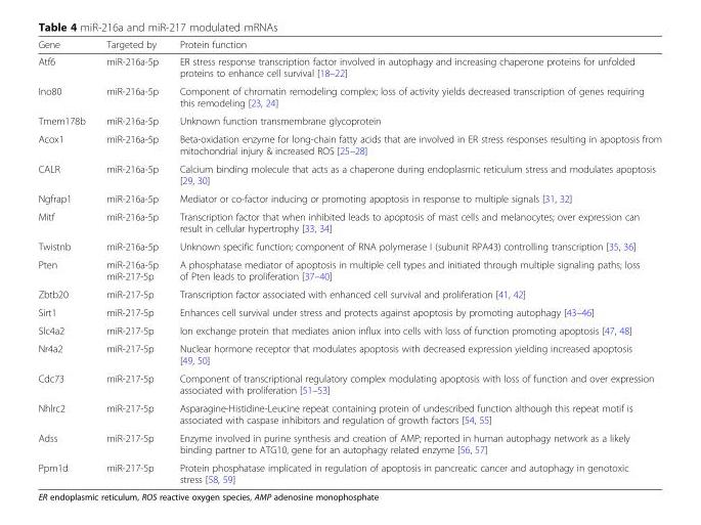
<table><thead><tr><td>Gene</td><td>Targeted by</td><td>Protein function</td></tr></thead><tbody><tr><td>Atf6</td><td>miR-216a-5p</td><td>ER stress response transcription factor involved in autophagy and increasing chaperone proteins for unfolded proteins to enhance cell survival [18–22]</td></tr><tr><td>Ino80</td><td>miR-216a-5p</td><td>Component of chromatin remodeling complex; loss of activity yields decreased transcription of genes requiring this remodeling [23, 24]</td></tr><tr><td>Tmem178b</td><td>miR-216a-5p</td><td>Unknown function transmembrane glycoprotein</td></tr><tr><td>Acox1</td><td>miR-216a-5p</td><td>Beta-oxidation enzyme for long-chain fatty acids that are involved in ER stress responses resulting in apoptosis from mitochondrial injury &amp; increased ROS [25–28]</td></tr><tr><td>CALR</td><td>miR-216a-5p</td><td>Calcium binding molecule that acts as a chaperone during endoplasmic reticulum stress and modulates apoptosis [29, 30]</td></tr><tr><td>Ngfrap1</td><td>miR-216a-5p</td><td>Mediator or co-factor inducing or promoting apoptosis in response to multiple signals [31, 32]</td></tr><tr><td>Mitf</td><td>miR-216a-5p</td><td>Transcription factor that when inhibited leads to apoptosis of mast cells and melanocytes; over expression can result in cellular hypertrophy [33, 34]</td></tr><tr><td>Twistnb</td><td>miR-216a-5p</td><td>Unknown specific function; component of RNA polymerase I (subunit RPA43) controlling transcription [35, 36]</td></tr><tr><td>Pten</td><td>miR-216a-5p miR-217-5p</td><td>A phosphatase mediator of apoptosis in multiple cell types and initiated through multiple signaling paths; loss of Pten leads to proliferation [37–40]</td></tr><tr><td>Zbtb20</td><td>miR-217-5p</td><td>Transcription factor associated with enhanced cell survival and proliferation [41, 42]</td></tr><tr><td>Sirt1</td><td>miR-217-5p</td><td>Enhances cell survival under stress and protects against apoptosis by promoting autophagy [43–46]</td></tr><tr><td>Slc4a2</td><td>miR-217-5p</td><td>Ion exchange protein that mediates anion influx into cells with loss of function promoting apoptosis [47, 48]</td></tr><tr><td>Nr4a2</td><td>miR-217-5p</td><td>Nuclear hormone receptor that modulates apoptosis with decreased expression yielding increased apoptosis [49, 50]</td></tr><tr><td>Cdc73</td><td>miR-217-5p</td><td>Component of transcriptional regulatory complex modulating apoptosis with loss of function and over expression associated with proliferation [51–53]</td></tr><tr><td>Nhlrc2</td><td>miR-217-5p</td><td>Asparagine-Histidine-Leucine repeat containing protein of undescribed function although this repeat motif is associated with caspase inhibitors and regulation of growth factors [54, 55]</td></tr><tr><td>Adss</td><td>miR-217-5p</td><td>Enzyme involved in purine synthesis and creation of AMP; reported in human autophagy network as a likely binding partner to ATG10, gene for an autophagy related enzyme [56, 57]</td></tr><tr><td>Ppm1d</td><td>miR-217-5p</td><td>Protein phosphatase implicated in regulation of apoptosis in pancreatic cancer and autophagy in genotoxic stress [58, 59]</td></tr></tbody></table>